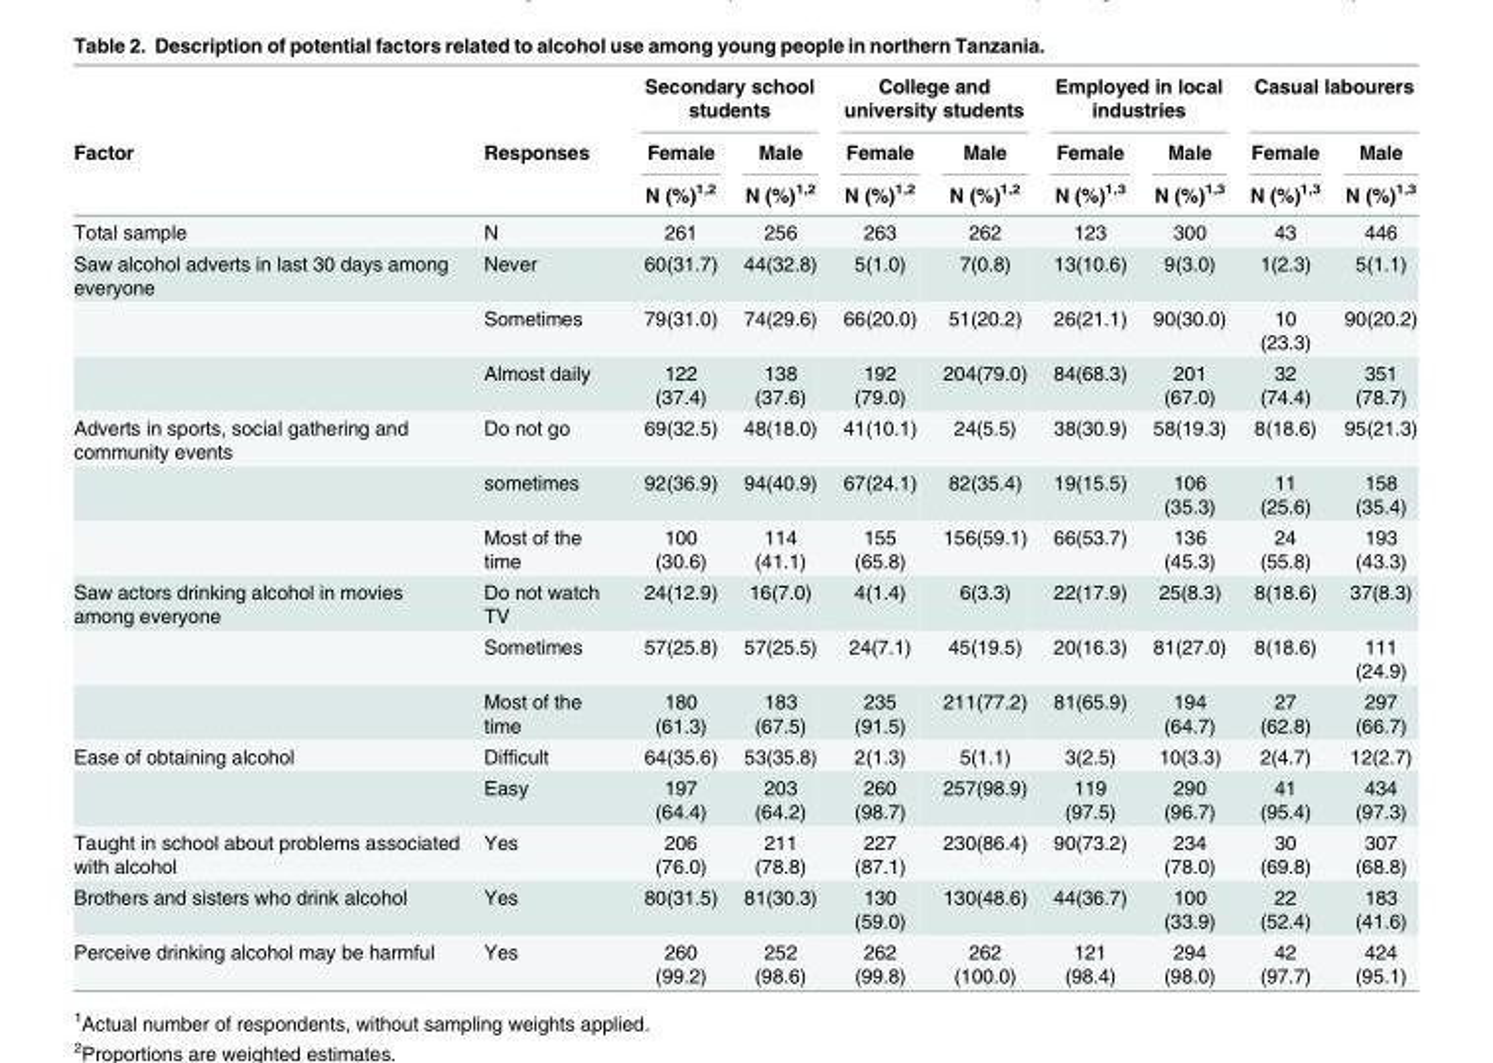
<table><thead><tr><td rowspan="3">Factor</td><td rowspan="3">Responses</td><td colspan="2">Secondary school students</td><td colspan="2">College and university students</td><td colspan="2">Employed in local industries</td><td colspan="2">Casual labourers</td></tr><tr><td rowspan="2">Female N (%)<sup>1,2</sup></td><td rowspan="2">Male N (%)<sup>1,2</sup></td><td rowspan="2">Female N (%)<sup>1,2</sup></td><td rowspan="2">Male N (%)<sup>1,2</sup></td><td rowspan="2">Female N (%)<sup>1,3</sup></td><td rowspan="2">Male N (%)<sup>1,3</sup></td><td rowspan="2">Female N (%)<sup>1,3</sup></td><td rowspan="2">Male N (%)<sup>1,3</sup></td></tr><tr></tr></thead><tbody><tr><td>Total sample</td><td>N</td><td>261</td><td>256</td><td>263</td><td>262</td><td>123</td><td>300</td><td>43</td><td>446</td></tr><tr><td rowspan="3">Saw alcohol adverts in last 30 days among everyone</td><td>Never</td><td>60(31.7)</td><td>44(32.8)</td><td>5(1.0)</td><td>7(0.8)</td><td>13(10.6)</td><td>9(3.0)</td><td>1(2.3)</td><td>5(1.1)</td></tr><tr><td>Sometimes</td><td>79(31.0)</td><td>74(29.6)</td><td>66(20.0)</td><td>51(20.2)</td><td>26(21.1)</td><td>90(30.0)</td><td>10 (23.3)</td><td>90(20.2)</td></tr><tr><td>Almost daily</td><td>122 (37.4)</td><td>138 (37.6)</td><td>192 (79.0)</td><td>204(79.0)</td><td>84(68.3)</td><td>201 (67.0)</td><td>32 (74.4)</td><td>351 (78.7)</td></tr><tr><td rowspan="3">Adverts in sports, social gathering and community events</td><td>Do not go</td><td>69(32.5)</td><td>48(18.0)</td><td>41(10.1)</td><td>24(5.5)</td><td>38(30.9)</td><td>58(19.3)</td><td>8(18.6)</td><td>95(21.3)</td></tr><tr><td>sometimes</td><td>92(36.9)</td><td>94(40.9)</td><td>67(24.1)</td><td>82(35.4)</td><td>19(15.5)</td><td>106 (35.3)</td><td>11 (25.6)</td><td>158 (35.4)</td></tr><tr><td>Most of the time</td><td>100 (30.6)</td><td>114 (41.1)</td><td>155 (65.8)</td><td>156(59.1)</td><td>66(53.7)</td><td>136 (45.3)</td><td>24 (55.8)</td><td>193 (43.3)</td></tr><tr><td rowspan="3">Saw actors drinking alcohol in movies among everyone</td><td>Do not watch TV</td><td>24(12.9)</td><td>16(7.0)</td><td>4(1.4)</td><td>6(3.3)</td><td>22(17.9)</td><td>25(8.3)</td><td>8(18.6)</td><td>37(8.3)</td></tr><tr><td>Sometimes</td><td>57(25.8)</td><td>57(25.5)</td><td>24(7.1)</td><td>45(19.5)</td><td>20(16.3)</td><td>81(27.0)</td><td>8(18.6)</td><td>111 (24.9)</td></tr><tr><td>Most of the time</td><td>180 (61.3)</td><td>183 (67.5)</td><td>235 (91.5)</td><td>211(77.2)</td><td>81(65.9)</td><td>194 (64.7)</td><td>27 (62.8)</td><td>297 (66.7)</td></tr><tr><td rowspan="2">Ease of obtaining alcohol</td><td>Difficult</td><td>64(35.6)</td><td>53(35.8)</td><td>2(1.3)</td><td>5(1.1)</td><td>3(2.5)</td><td>10(3.3)</td><td>2(4.7)</td><td>12(2.7)</td></tr><tr><td>Easy</td><td>197 (64.4)</td><td>203 (64.2)</td><td>260 (98.7)</td><td>257(98.9)</td><td>119 (97.5)</td><td>290 (96.7)</td><td>41 (95.4)</td><td>434 (97.3)</td></tr><tr><td>Taught in school about problems associated with alcohol</td><td>Yes</td><td>206 (76.0)</td><td>211 (78.8)</td><td>227 (87.1)</td><td>230(86.4)</td><td>90(73.2)</td><td>234 (78.0)</td><td>30 (69.8)</td><td>307 (68.8)</td></tr><tr><td>Brothers and sisters who drink alcohol</td><td>Yes</td><td>80(31.5)</td><td>81(30.3)</td><td>130 (59.0)</td><td>130(48.6)</td><td>44(36.7)</td><td>100 (33.9)</td><td>22 (52.4)</td><td>183 (41.6)</td></tr><tr><td>Perceive drinking alcohol may be harmful</td><td>Yes</td><td>260 (99.2)</td><td>252 (98.6)</td><td>262 (99.8)</td><td>262 (100.0)</td><td>121 (98.4)</td><td>294 (98.0)</td><td>42 (97.7)</td><td>424 (95.1)</td></tr></tbody></table>